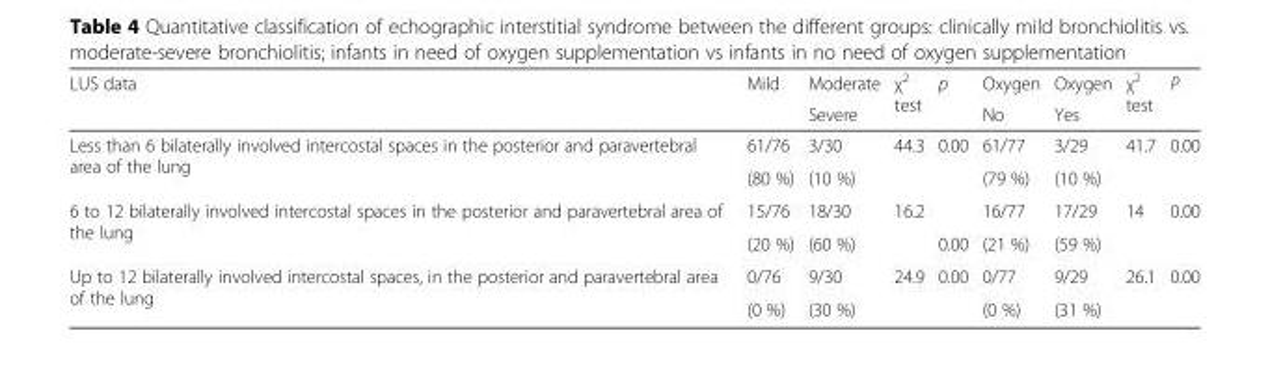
<table><thead><tr><td rowspan="2">LUS data</td><td rowspan="2">Mild</td><td rowspan="2">Moderate Severe</td><td rowspan="2">χ<sup>2</sup> test</td><td rowspan="2">p</td><td rowspan="2">Oxygen No</td><td rowspan="2">Oxygen Yes</td><td rowspan="2">χ<sup>2</sup> test</td><td rowspan="2">P</td></tr><tr></tr></thead><tbody><tr><td rowspan="2">Less than 6 bilaterally involved intercostal spaces in the posterior and paravertebral area of the lung</td><td>61/76</td><td>3/30</td><td>44.3</td><td>0.00</td><td>61/77</td><td>3/29</td><td rowspan="2">41.7</td><td rowspan="2">0.00</td></tr><tr><td>(80 %)</td><td>(10 %)</td><td></td><td></td><td>(79 %)</td><td>(10 %)</td></tr><tr><td rowspan="2">6 to 12 bilaterally involved intercostal spaces in the posterior and paravertebral area of the lung</td><td>15/76</td><td>18/30</td><td>16.2</td><td></td><td>16/77</td><td>17/29</td><td rowspan="2">14</td><td rowspan="2">0.00</td></tr><tr><td>(20 %)</td><td>(60 %)</td><td></td><td>0.00</td><td>(21 %)</td><td>(59 %)</td></tr><tr><td rowspan="2">Up to 12 bilaterally involved intercostal spaces, in the posterior and paravertebral area of the lung</td><td>0/76</td><td>9/30</td><td>24.9</td><td>0.00</td><td>0/77</td><td>9/29</td><td rowspan="2">26.1</td><td rowspan="2">0.00</td></tr><tr><td>(0 %)</td><td>(30 %)</td><td></td><td></td><td>(0 %)</td><td>(31 %)</td></tr></tbody></table>